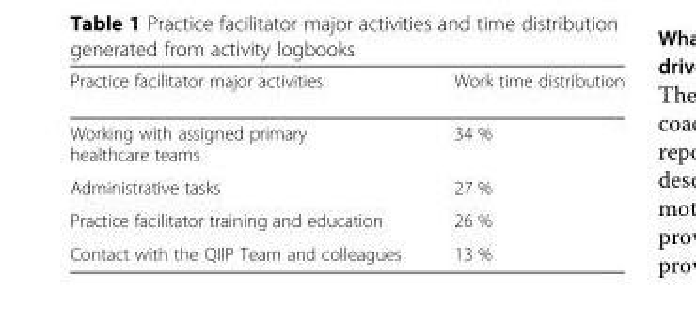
<table><thead><tr><td>Practice facilitator major activities</td><td>Work time distribution</td></tr></thead><tbody><tr><td>Working with assigned primary healthcare teams</td><td>34 %</td></tr><tr><td>Administrative tasks</td><td>27 %</td></tr><tr><td>Practice facilitator training and education</td><td>26 %</td></tr><tr><td>Contact with the QIIP Team and colleagues</td><td>13 %</td></tr></tbody></table>